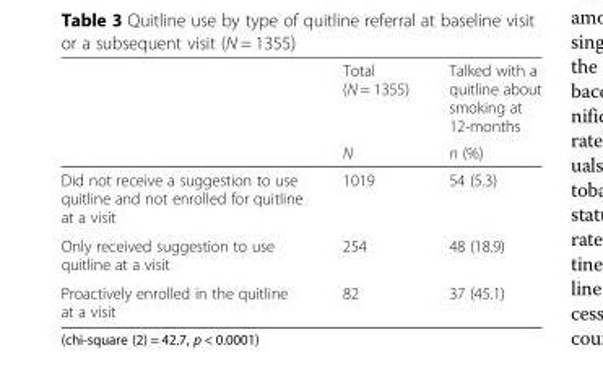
<table><thead><tr><td rowspan="2"></td><td rowspan="2">Total (N = 1355) N</td><td rowspan="2">Talked with a quitline about smoking at 12-months n (%)</td></tr><tr></tr></thead><tbody><tr><td>Did not receive a suggestion to use quitline and not enrolled for quitline at a visit</td><td>1019</td><td>54 (5.3)</td></tr><tr><td>Only received suggestion to use quitline at a visit</td><td>254</td><td>48 (18.9)</td></tr><tr><td>Proactively enrolled in the quitline at a visit</td><td>82</td><td>37 (45.1)</td></tr></tbody></table>